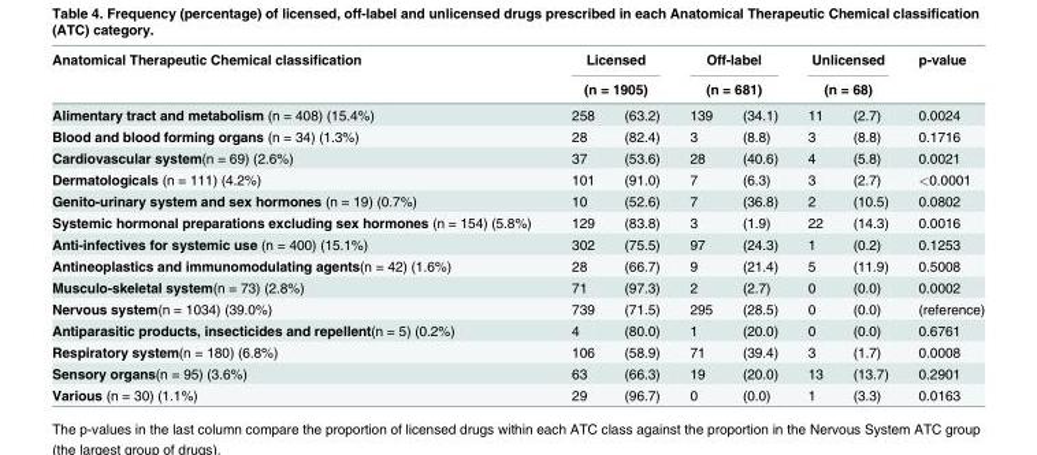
<table><thead><tr><td rowspan="3">Anatomical Therapeutic Chemical classification Alimentary tract and metabolism (n = 408) (15.4%)</td><td rowspan="2" colspan="2">Licensed (n = 1905)</td><td rowspan="2" colspan="2">Off-label (n = 681)</td><td rowspan="2" colspan="2">Unlicensed (n = 68)</td><td rowspan="3">p-value 0.0024</td></tr><tr></tr><tr><td>258</td><td>(63.2)</td><td>139</td><td>(34.1)</td><td>11</td><td>(2.7)</td></tr></thead><tbody><tr><td>Blood and blood forming organs (n = 34) (1.3%)</td><td>28</td><td>(82.4)</td><td>3</td><td>(8.8)</td><td>3</td><td>(8.8)</td><td>0.1716</td></tr><tr><td>Cardiovascular system(n = 69) (2.6%)</td><td>37</td><td>(53.6)</td><td>28</td><td>(40.6)</td><td>4</td><td>(5.8)</td><td>0.0021</td></tr><tr><td>Dermatologicals (n = 111) (4.2%)</td><td>101</td><td>(91.0)</td><td>7</td><td>(6.3)</td><td>3</td><td>(2.7)</td><td>&lt;0.0001</td></tr><tr><td>Genito-urinary system and sex hormones (n = 19) (0.7%)</td><td>10</td><td>(52.6)</td><td>7</td><td>(36.8)</td><td>2</td><td>(10.5)</td><td>0.0802</td></tr><tr><td>Systemic hormonal preparations excluding sex hormones (n = 154) (5.8%)</td><td>129</td><td>(83.8)</td><td>3</td><td>(1.9)</td><td>22</td><td>(14.3)</td><td>0.0016</td></tr><tr><td>Anti-infectives for systemic use (n = 400) (15.1%)</td><td>302</td><td>(75.5)</td><td>97</td><td>(24.3)</td><td>1</td><td>(0.2)</td><td>0.1253</td></tr><tr><td>Antineoplastics and immunomodulating agents(n = 42) (1.6%)</td><td>28</td><td>(66.7)</td><td>9</td><td>(21.4)</td><td>5</td><td>(11.9)</td><td>0.5008</td></tr><tr><td>Musculo-skeletal system(n = 73) (2.8%)</td><td>71</td><td>(97.3)</td><td>2</td><td>(2.7)</td><td>0</td><td>(0.0)</td><td>0.0002</td></tr><tr><td>Nervous system(n = 1034) (39.0%)</td><td>739</td><td>(71.5)</td><td>295</td><td>(28.5)</td><td>0</td><td>(0.0)</td><td>(reference)</td></tr><tr><td>Antiparasitic products, insecticides and repellent(n = 5) (0.2%)</td><td>4</td><td>(80.0)</td><td>1</td><td>(20.0)</td><td>0</td><td>(0.0)</td><td>0.6761</td></tr><tr><td>Respiratory system(n = 180) (6.8%)</td><td>106</td><td>(58.9)</td><td>71</td><td>(39.4)</td><td>3</td><td>(1.7)</td><td>0.0008</td></tr><tr><td>Sensory organs(n = 95) (3.6%)</td><td>63</td><td>(66.3)</td><td>19</td><td>(20.0)</td><td>13</td><td>(13.7)</td><td>0.2901</td></tr><tr><td>Various (n = 30) (1.1%)</td><td>29</td><td>(96.7)</td><td>0</td><td>(0.0)</td><td>1</td><td>(3.3)</td><td>0.0163</td></tr></tbody></table>